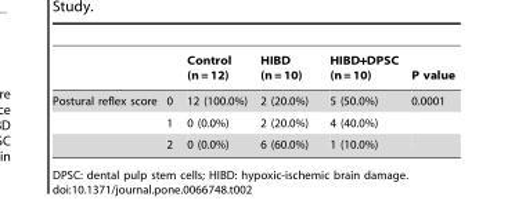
<table><thead><tr><td></td><td></td><td>Control (n = 12)</td><td>HIBD (n = 10)</td><td>HIBD+DPSC (n = 10)</td><td>P value</td></tr></thead><tbody><tr><td rowspan="3">Postural reflex score</td><td>0</td><td>12 (100.0%)</td><td>2 (20.0%)</td><td>5 (50.0%)</td><td>0.0001</td></tr><tr><td>1</td><td>0 (0.0%)</td><td>2 (20.0%)</td><td>4 (40.0%)</td><td></td></tr><tr><td>2</td><td>0 (0.0%)</td><td>6 (60.0%)</td><td>1 (10.0%)</td><td></td></tr></tbody></table>